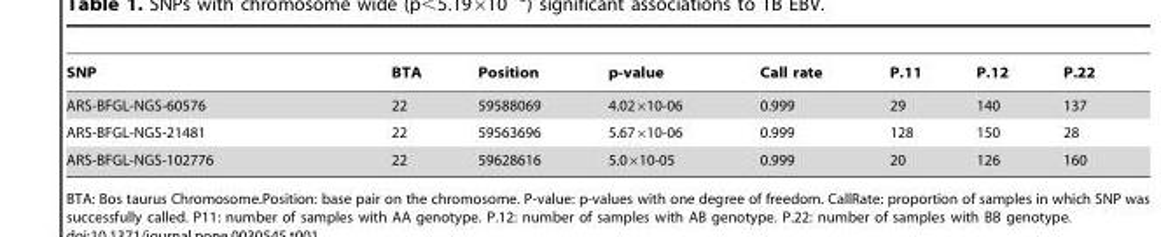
<table><thead><tr><td>SNP</td><td>BTA</td><td>Position</td><td>p-value</td><td>Call rate</td><td>P.11</td><td>P.12</td><td>P.22</td></tr></thead><tbody><tr><td>ARS-BFGL-NGS-60576</td><td>22</td><td>59588069</td><td>4.02×10-06</td><td>0.999</td><td>29</td><td>140</td><td>137</td></tr><tr><td>ARS-BFGL-NGS-21481</td><td>22</td><td>59563696</td><td>5.67×10-06</td><td>0.999</td><td>128</td><td>150</td><td>28</td></tr><tr><td>ARS-BFGL-NGS-102776</td><td>22</td><td>59628616</td><td>5.0×10-05</td><td>0.999</td><td>20</td><td>126</td><td>160</td></tr></tbody></table>